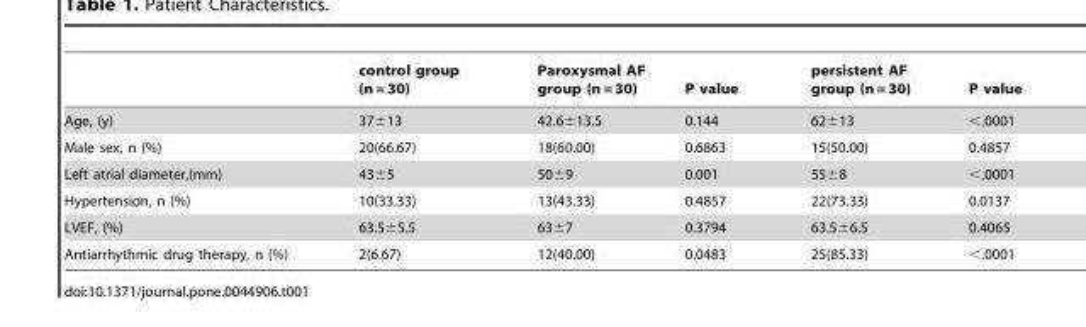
<table><thead><tr><td></td><td>control group (n = 30)</td><td>Paroxysmal AF group (n = 30)</td><td>P value</td><td>persistent AF group (n = 30)</td><td>P value</td></tr></thead><tbody><tr><td>Age, (y)</td><td>37±13</td><td>42.6±13.5</td><td>0.144</td><td>62±13</td><td>&lt;.0001</td></tr><tr><td>Male sex, n (%)</td><td>20(66.67)</td><td>18(60.00)</td><td>0.6863</td><td>15(50.00)</td><td>0.4857</td></tr><tr><td>Left atrial diameter,(mm)</td><td>43±5</td><td>50±9</td><td>0.001</td><td>55±8</td><td>&lt;.0001</td></tr><tr><td>Hypertension, n (%)</td><td>10(33.33)</td><td>13(43.33)</td><td>0.4857</td><td>22(73.33)</td><td>0.0137</td></tr><tr><td>LVEF, (%)</td><td>63.5±5.5</td><td>63±7</td><td>0.3794</td><td>63.5±6.5</td><td>0.4065</td></tr><tr><td>Antiarrhythmic drug therapy, n (%)</td><td>2(6.67)</td><td>12(40.00)</td><td>0.0483</td><td>25(85.33)</td><td>&lt;.0001</td></tr></tbody></table>